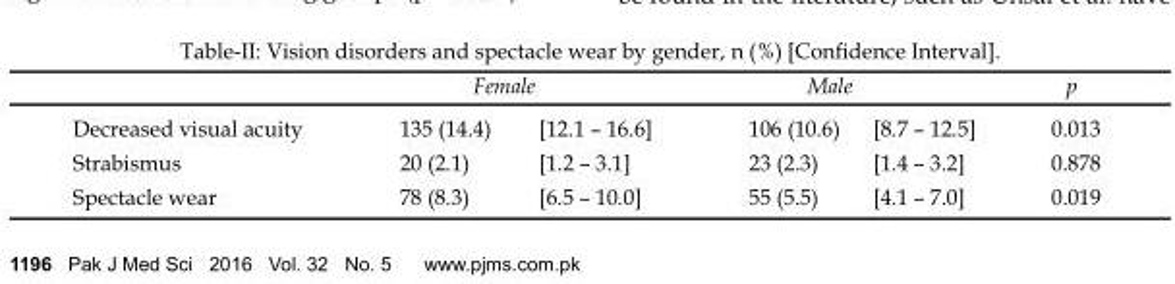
<table><thead><tr><td rowspan="2">Decreased visual acuity</td><td colspan="2">Female</td><td colspan="2">Male</td><td rowspan="2">p 0.013</td></tr><tr><td>135 (14.4)</td><td>[12.1 – 16.6]</td><td>106 (10.6)</td><td>[8.7 – 12.5]</td></tr></thead><tbody><tr><td>Strabismus</td><td>20 (2.1)</td><td>[1.2 – 3.1]</td><td>23 (2.3)</td><td>[1.4 – 3.2]</td><td>0.878</td></tr><tr><td>Spectacle wear</td><td>78 (8.3)</td><td>[6.5 – 10.0]</td><td>55 (5.5)</td><td>[4.1 – 7.0]</td><td>0.019</td></tr></tbody></table>